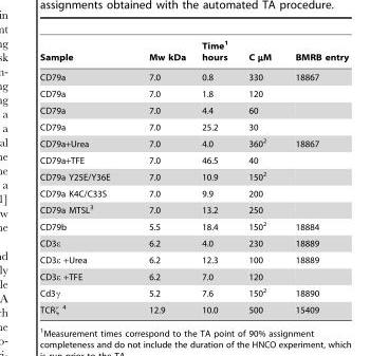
<table><thead><tr><td>Sample</td><td>Mw kDa</td><td>Time<sup>1</sup> hours</td><td>C µM</td><td>BMRB entry</td></tr></thead><tbody><tr><td>CD79a</td><td>7.0</td><td>0.8</td><td>330</td><td>18867</td></tr><tr><td>CD79a</td><td>7.0</td><td>1.8</td><td>120</td><td></td></tr><tr><td>CD79a</td><td>7.0</td><td>4.4</td><td>60</td><td></td></tr><tr><td>CD79a</td><td>7.0</td><td>25.2</td><td>30</td><td></td></tr><tr><td>CD79a+Urea</td><td>7.0</td><td>4.0</td><td>360<sup>2</sup></td><td>18867</td></tr><tr><td>CD79a+TFE</td><td>7.0</td><td>46.5</td><td>40</td><td></td></tr><tr><td>CD79a Y25E/Y36E</td><td>7.0</td><td>10.9</td><td>150<sup>2</sup></td><td></td></tr><tr><td>CD79a K4C/C33S</td><td>7.0</td><td>9.9</td><td>200</td><td></td></tr><tr><td>CD79a MTSL<sup>3</sup></td><td>7.0</td><td>13.2</td><td>250</td><td></td></tr><tr><td>CD79b</td><td>5.5</td><td>18.4</td><td>150<sup>2</sup></td><td>18884</td></tr><tr><td>CD3ε</td><td>6.2</td><td>4.0</td><td>230</td><td>18889</td></tr><tr><td>CD3ε +Urea</td><td>6.2</td><td>12.3</td><td>100</td><td>18889</td></tr><tr><td>CD3ε +TFE</td><td>6.2</td><td>7.0</td><td>120</td><td></td></tr><tr><td>Cd3γ</td><td>5.2</td><td>7.6</td><td>150<sup>2</sup></td><td>18890</td></tr><tr><td>TCRζ 4</td><td>12.9</td><td>10.0</td><td>500</td><td>15409</td></tr></tbody></table>